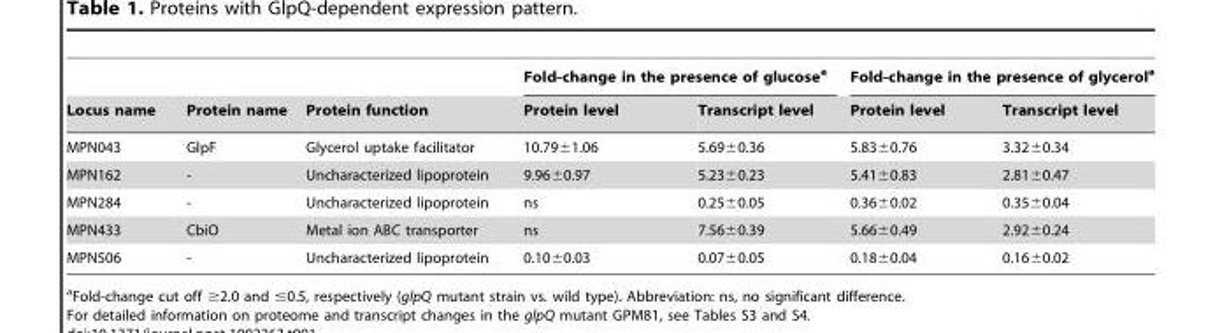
<table><thead><tr><td rowspan="2">Locus name</td><td rowspan="2">Protein name</td><td rowspan="2">Protein function</td><td colspan="2">Fold-change in the presence of glucose<sup>a</sup></td><td colspan="2">Fold-change in the presence of glycerol<sup>a</sup></td></tr><tr><td>Protein level</td><td>Transcript level</td><td>Protein level</td><td>Transcript level</td></tr></thead><tbody><tr><td>MPN043</td><td>GlpF</td><td>Glycerol uptake facilitator</td><td>10.79±1.06</td><td>5.69±0.36</td><td>5.83±0.76</td><td>3.32±0.34</td></tr><tr><td>MPN162</td><td>-</td><td>Uncharacterized lipoprotein</td><td>9.96±0.97</td><td>5.23±0.23</td><td>5.41±0.83</td><td>2.81±0.47</td></tr><tr><td>MPN284</td><td>-</td><td>Uncharacterized lipoprotein</td><td>ns</td><td>0.25±0.05</td><td>0.36±0.02</td><td>0.35±0.04</td></tr><tr><td>MPN433</td><td>CbiO</td><td>Metal ion ABC transporter</td><td>ns</td><td>7.56±0.39</td><td>5.66±0.49</td><td>2.92±0.24</td></tr><tr><td>MPN506</td><td>-</td><td>Uncharacterized lipoprotein</td><td>0.10±0.03</td><td>0.07±0.05</td><td>0.18±0.04</td><td>0.16±0.02</td></tr></tbody></table>